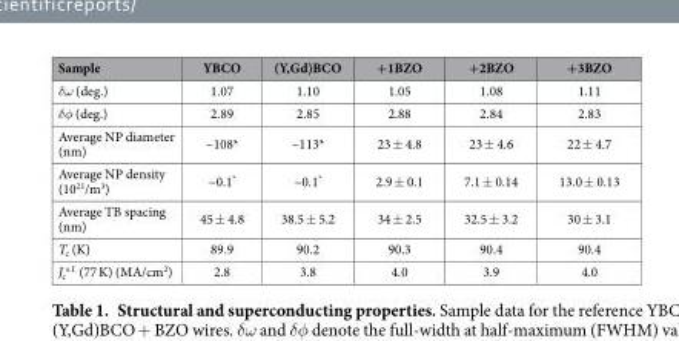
<table><thead><tr><td>Sample</td><td>YBCO</td><td>(Y,Gd)BCO</td><td>+1BZO</td><td>+2BZO</td><td>+3BZO</td></tr></thead><tbody><tr><td>δω (deg.)</td><td>1.07</td><td>1.10</td><td>1.05</td><td>1.08</td><td>1.11</td></tr><tr><td>δφ (deg.)</td><td>2.89</td><td>2.85</td><td>2.88</td><td>2.84</td><td>2.83</td></tr><tr><td>Average NP diameter (nm)</td><td>~108*</td><td>~113*</td><td>23 ± 4.8</td><td>23 ± 4.6</td><td>22 ± 4.7</td></tr><tr><td>Average NP density (10<sup>21</sup>/m<sup>3</sup>)</td><td>~0.1*</td><td>~0.1*</td><td>2.9 ± 0.1</td><td>7.1 ± 0.14</td><td>13.0 ± 0.13</td></tr><tr><td>Average TB spacing (nm)</td><td>45 ± 4.8</td><td>38.5 ± 5.2</td><td>34 ± 2.5</td><td>32.5 ± 3.2</td><td>30 ± 3.1</td></tr><tr><td>T<sub>c</sub> (K)</td><td>89.9</td><td>90.2</td><td>90.3</td><td>90.4</td><td>90.4</td></tr><tr><td>J<sub>c</sub> <sup>s.f.</sup> (77 K) (MA/cm<sup>2</sup>)</td><td>2.8</td><td>3.8</td><td>4.0</td><td>3.9</td><td>4.0</td></tr></tbody></table>